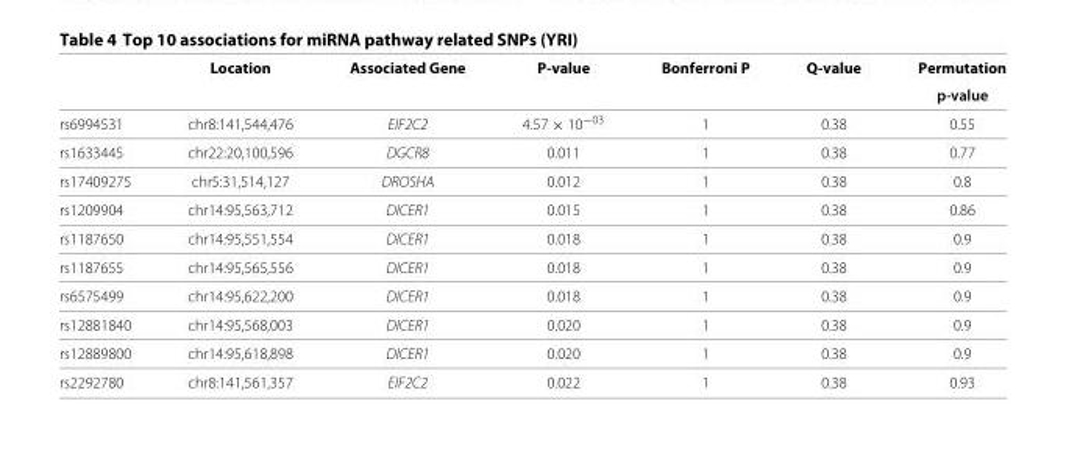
<table><thead><tr><td rowspan="2"></td><td rowspan="2">Location</td><td rowspan="2">Associated Gene</td><td rowspan="2">P-value</td><td rowspan="2">Bonferroni P</td><td rowspan="2">Q-value</td><td rowspan="2">Permutation p-value</td></tr><tr></tr></thead><tbody><tr><td>rs6994531</td><td>chr8:141,544,476</td><td>EIF2C2</td><td>4.57 × 10<sup>−03</sup></td><td>1</td><td>0.38</td><td>0.55</td></tr><tr><td>rs1633445</td><td>chr22:20,100,596</td><td>DGCR8</td><td>0.011</td><td>1</td><td>0.38</td><td>0.77</td></tr><tr><td>rs17409275</td><td>chr5:31,514,127</td><td>DROSHA</td><td>0.012</td><td>1</td><td>0.38</td><td>0.8</td></tr><tr><td>rs1209904</td><td>chr14:95,563,712</td><td>DICER1</td><td>0.015</td><td>1</td><td>0.38</td><td>0.86</td></tr><tr><td>rs1187650</td><td>chr14:95,551,554</td><td>DICER1</td><td>0.018</td><td>1</td><td>0.38</td><td>0.9</td></tr><tr><td>rs1187655</td><td>chr14:95,565,556</td><td>DICER1</td><td>0.018</td><td>1</td><td>0.38</td><td>0.9</td></tr><tr><td>rs6575499</td><td>chr14:95,622,200</td><td>DICER1</td><td>0.018</td><td>1</td><td>0.38</td><td>0.9</td></tr><tr><td>rs12881840</td><td>chr14:95,568,003</td><td>DICER1</td><td>0.020</td><td>1</td><td>0.38</td><td>0.9</td></tr><tr><td>rs12889800</td><td>chr14:95,618,898</td><td>DICER1</td><td>0.020</td><td>1</td><td>0.38</td><td>0.9</td></tr><tr><td>rs2292780</td><td>chr8:141,561,357</td><td>EIF2C2</td><td>0.022</td><td>1</td><td>0.38</td><td>0.93</td></tr></tbody></table>